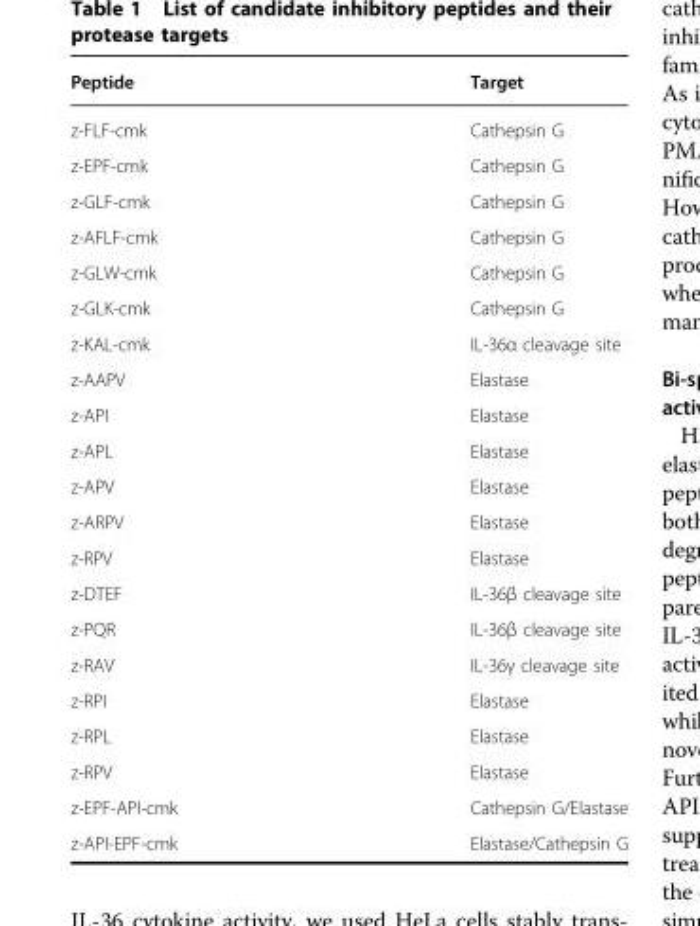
<table><thead><tr><td>Peptide</td><td>Target</td></tr></thead><tbody><tr><td>z-FLF-cmk</td><td>Cathepsin G</td></tr><tr><td>z-EPF-cmk</td><td>Cathepsin G</td></tr><tr><td>z-GLF-cmk</td><td>Cathepsin G</td></tr><tr><td>z-AFLF-cmk</td><td>Cathepsin G</td></tr><tr><td>z-GLW-cmk</td><td>Cathepsin G</td></tr><tr><td>z-GLK-cmk</td><td>Cathepsin G</td></tr><tr><td>z-KAL-cmk</td><td>IL-36α cleavage site</td></tr><tr><td>z-AAPV</td><td>Elastase</td></tr><tr><td>z-API</td><td>Elastase</td></tr><tr><td>z-APL</td><td>Elastase</td></tr><tr><td>z-APV</td><td>Elastase</td></tr><tr><td>z-ARPV</td><td>Elastase</td></tr><tr><td>z-RPV</td><td>Elastase</td></tr><tr><td>z-DTEF</td><td>IL-36β cleavage site</td></tr><tr><td>z-PQR</td><td>IL-36β cleavage site</td></tr><tr><td>z-RAV</td><td>IL-36γ cleavage site</td></tr><tr><td>z-RPI</td><td>Elastase</td></tr><tr><td>z-RPL</td><td>Elastase</td></tr><tr><td>z-RPV</td><td>Elastase</td></tr><tr><td>z-EPF-API-cmk</td><td>Cathepsin G/Elastase</td></tr><tr><td>z-API-EPF-cmk</td><td>Elastase/Cathepsin G</td></tr></tbody></table>